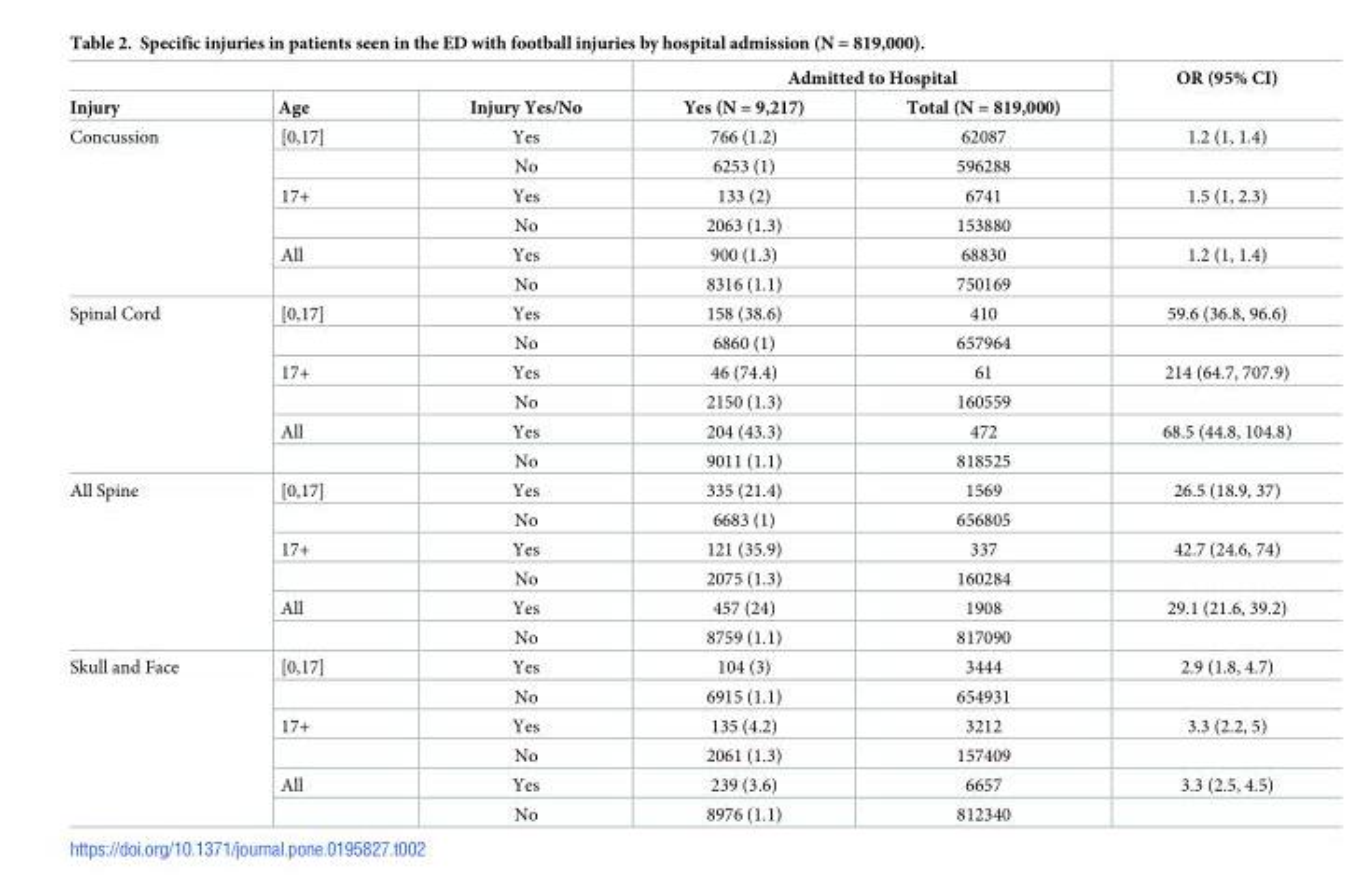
<table><thead><tr><td rowspan="2">Injury</td><td rowspan="2">Age</td><td rowspan="2">Injury Yes/No</td><td colspan="2">Admitted to Hospital</td><td rowspan="2">OR (95% CI)</td></tr><tr><td>Yes (N = 9,217)</td><td>Total (N = 819,000)</td></tr></thead><tbody><tr><td rowspan="6">Concussion</td><td>[0,17]</td><td>Yes</td><td>766 (1.2)</td><td>62087</td><td>1.2 (1, 1.4)</td></tr><tr><td></td><td>No</td><td>6253 (1)</td><td>596288</td><td></td></tr><tr><td>17+</td><td>Yes</td><td>133 (2)</td><td>6741</td><td>1.5 (1, 2.3)</td></tr><tr><td></td><td>No</td><td>2063 (1.3)</td><td>153880</td><td></td></tr><tr><td>All</td><td>Yes</td><td>900 (1.3)</td><td>68830</td><td>1.2 (1, 1.4)</td></tr><tr><td></td><td>No</td><td>8316 (1.1)</td><td>750169</td><td></td></tr><tr><td rowspan="6">Spinal Cord</td><td>[0,17]</td><td>Yes</td><td>158 (38.6)</td><td>410</td><td>59.6 (36.8, 96.6)</td></tr><tr><td></td><td>No</td><td>6860 (1)</td><td>657964</td><td></td></tr><tr><td>17+</td><td>Yes</td><td>46 (74.4)</td><td>61</td><td>214 (64.7, 707.9)</td></tr><tr><td></td><td>No</td><td>2150 (1.3)</td><td>160559</td><td></td></tr><tr><td>All</td><td>Yes</td><td>204 (43.3)</td><td>472</td><td>68.5 (44.8, 104.8)</td></tr><tr><td></td><td>No</td><td>9011 (1.1)</td><td>818525</td><td></td></tr><tr><td rowspan="6">All Spine</td><td>[0,17]</td><td>Yes</td><td>335 (21.4)</td><td>1569</td><td>26.5 (18.9, 37)</td></tr><tr><td></td><td>No</td><td>6683 (1)</td><td>656805</td><td></td></tr><tr><td>17+</td><td>Yes</td><td>121 (35.9)</td><td>337</td><td>42.7 (24.6, 74)</td></tr><tr><td></td><td>No</td><td>2075 (1.3)</td><td>160284</td><td></td></tr><tr><td>All</td><td>Yes</td><td>457 (24)</td><td>1908</td><td>29.1 (21.6, 39.2)</td></tr><tr><td></td><td>No</td><td>8759 (1.1)</td><td>817090</td><td></td></tr><tr><td rowspan="6">Skull and Face</td><td>[0,17]</td><td>Yes</td><td>104 (3)</td><td>3444</td><td>2.9 (1.8, 4.7)</td></tr><tr><td></td><td>No</td><td>6915 (1.1)</td><td>654931</td><td></td></tr><tr><td>17+</td><td>Yes</td><td>135 (4.2)</td><td>3212</td><td>3.3 (2.2, 5)</td></tr><tr><td></td><td>No</td><td>2061 (1.3)</td><td>157409</td><td></td></tr><tr><td>All</td><td>Yes</td><td>239 (3.6)</td><td>6657</td><td>3.3 (2.5, 4.5)</td></tr><tr><td></td><td>No</td><td>8976 (1.1)</td><td>812340</td><td></td></tr></tbody></table>